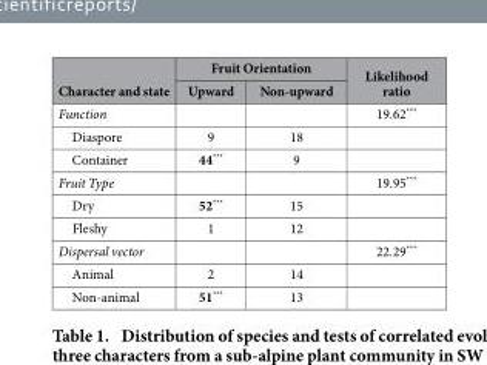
<table><thead><tr><td rowspan="2">Character and state</td><td colspan="2">Fruit Orientation</td><td rowspan="2">Likelihood ratio</td></tr><tr><td>Upward</td><td>Non-upward</td></tr></thead><tbody><tr><td>Function</td><td></td><td></td><td>19.62***</td></tr><tr><td>Diaspore</td><td>9</td><td>18</td><td></td></tr><tr><td>Container</td><td>44***</td><td>9</td><td></td></tr><tr><td>Fruit Type</td><td></td><td></td><td>19.95***</td></tr><tr><td>Dry</td><td>52***</td><td>15</td><td></td></tr><tr><td>Fleshy</td><td>1</td><td>12</td><td></td></tr><tr><td>Dispersal vector</td><td></td><td></td><td>22.29***</td></tr><tr><td>Animal</td><td>2</td><td>14</td><td></td></tr><tr><td>Non-animal</td><td>51***</td><td>13</td><td></td></tr></tbody></table>